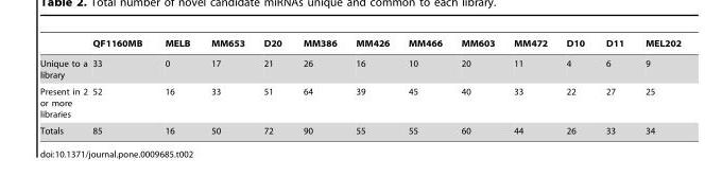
<table><thead><tr><td></td><td>QF1160MB</td><td>MELB</td><td>MM653</td><td>D20</td><td>MM386</td><td>MM426</td><td>MM466</td><td>MM603</td><td>MM472</td><td>D10</td><td>D11</td><td>MEL202</td></tr></thead><tbody><tr><td>Unique to a library</td><td>33</td><td>0</td><td>17</td><td>21</td><td>26</td><td>16</td><td>10</td><td>20</td><td>11</td><td>4</td><td>6</td><td>9</td></tr><tr><td>Present in 2 or more libraries</td><td>52</td><td>16</td><td>33</td><td>51</td><td>64</td><td>39</td><td>45</td><td>40</td><td>33</td><td>22</td><td>27</td><td>25</td></tr><tr><td>Totals</td><td>85</td><td>16</td><td>50</td><td>72</td><td>90</td><td>55</td><td>55</td><td>60</td><td>44</td><td>26</td><td>33</td><td>34</td></tr></tbody></table>